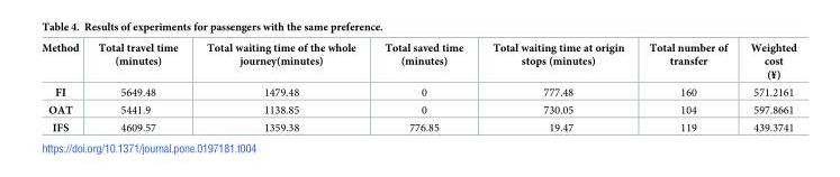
<table><thead><tr><td>Method</td><td>Total travel time (minutes)</td><td>Total waiting time of the whole journey(minutes)</td><td>Total saved time (minutes)</td><td>Total waiting time at origin stops (minutes)</td><td>Total number of transfer</td><td>Weighted cost (¥)</td></tr></thead><tbody><tr><td>FI</td><td>5649.48</td><td>1479.48</td><td>0</td><td>777.48</td><td>160</td><td>571.2161</td></tr><tr><td>OAT</td><td>5441.9</td><td>1138.85</td><td>0</td><td>730.05</td><td>104</td><td>597.8661</td></tr><tr><td>IFS</td><td>4609.57</td><td>1359.38</td><td>776.85</td><td>19.47</td><td>119</td><td>439.3741</td></tr></tbody></table>